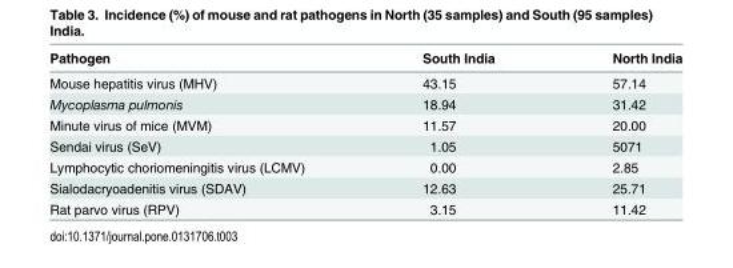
<table><thead><tr><td>Pathogen</td><td>South India</td><td>North India</td></tr></thead><tbody><tr><td>Mouse hepatitis virus (MHV)</td><td>43.15</td><td>57.14</td></tr><tr><td>Mycoplasma pulmonis</td><td>18.94</td><td>31.42</td></tr><tr><td>Minute virus of mice (MVM)</td><td>11.57</td><td>20.00</td></tr><tr><td>Sendai virus (SeV)</td><td>1.05</td><td>5071</td></tr><tr><td>Lymphocytic choriomeningitis virus (LCMV)</td><td>0.00</td><td>2.85</td></tr><tr><td>Sialodacryoadenitis virus (SDAV)</td><td>12.63</td><td>25.71</td></tr><tr><td>Rat parvo virus (RPV)</td><td>3.15</td><td>11.42</td></tr></tbody></table>